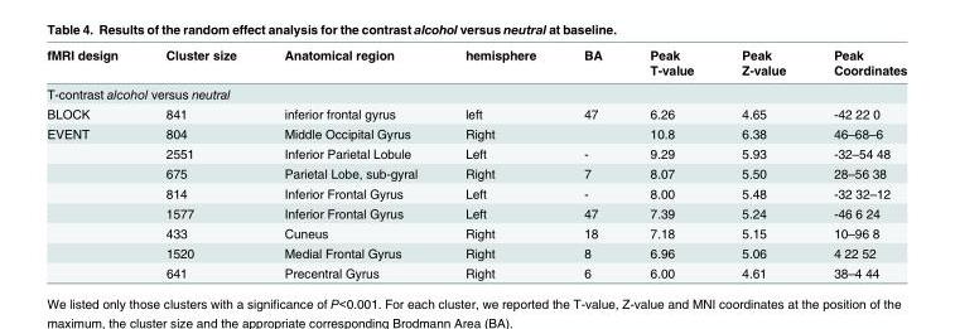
<table><thead><tr><td rowspan="2">fMRI design</td><td rowspan="2">Cluster size</td><td rowspan="2">Anatomical region</td><td rowspan="2">hemisphere</td><td rowspan="2">BA</td><td rowspan="2">Peak T-value</td><td rowspan="2">Peak Z-value</td><td rowspan="2">Peak Coordinates</td></tr><tr></tr></thead><tbody><tr><td colspan="8">T-contrast alcohol versus neutral</td></tr><tr><td>BLOCK</td><td>841</td><td>inferior frontal gyrus</td><td>left</td><td>47</td><td>6.26</td><td>4.65</td><td>-42 22 0</td></tr><tr><td rowspan="8">EVENT</td><td>804</td><td>Middle Occipital Gyrus</td><td>Right</td><td></td><td>10.8</td><td>6.38</td><td>46–68–6</td></tr><tr><td>2551</td><td>Inferior Parietal Lobule</td><td>Left</td><td>-</td><td>9.29</td><td>5.93</td><td>-32–54 48</td></tr><tr><td>675</td><td>Parietal Lobe, sub-gyral</td><td>Right</td><td>7</td><td>8.07</td><td>5.50</td><td>28–56 38</td></tr><tr><td>814</td><td>Inferior Frontal Gyrus</td><td>Left</td><td>-</td><td>8.00</td><td>5.48</td><td>-32 32–12</td></tr><tr><td>1577</td><td>Inferior Frontal Gyrus</td><td>Left</td><td>47</td><td>7.39</td><td>5.24</td><td>-46 6 24</td></tr><tr><td>433</td><td>Cuneus</td><td>Right</td><td>18</td><td>7.18</td><td>5.15</td><td>10–96 8</td></tr><tr><td>1520</td><td>Medial Frontal Gyrus</td><td>Right</td><td>8</td><td>6.96</td><td>5.06</td><td>4 22 52</td></tr><tr><td>641</td><td>Precentral Gyrus</td><td>Right</td><td>6</td><td>6.00</td><td>4.61</td><td>38–4 44</td></tr></tbody></table>